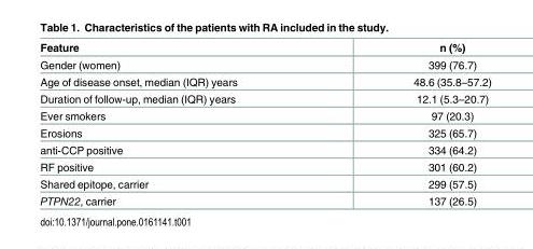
<table><thead><tr><td>Feature</td><td>n (%)</td></tr></thead><tbody><tr><td>Gender (women)</td><td>399 (76.7)</td></tr><tr><td>Age of disease onset, median (IQR) years</td><td>48.6 (35.8–57.2)</td></tr><tr><td>Duration of follow-up, median (IQR) years</td><td>12.1 (5.3–20.7)</td></tr><tr><td>Ever smokers</td><td>97 (20.3)</td></tr><tr><td>Erosions</td><td>325 (65.7)</td></tr><tr><td>anti-CCP positive</td><td>334 (64.2)</td></tr><tr><td>RF positive</td><td>301 (60.2)</td></tr><tr><td>Shared epitope, carrier</td><td>299 (57.5)</td></tr><tr><td>PTPN22, carrier</td><td>137 (26.5)</td></tr></tbody></table>